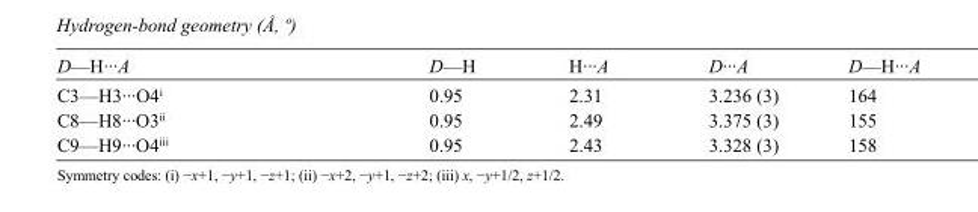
<table><tbody><tr><td>D—H···A</td><td>D—H</td><td>H···A</td><td>D···A</td><td>D—H···A</td></tr><tr><td>C3—H3···O4<sup>i</sup></td><td>0.95</td><td>2.31</td><td>3.236 (3)</td><td>164</td></tr><tr><td>C8—H8···O3<sup>ii</sup></td><td>0.95</td><td>2.49</td><td>3.375 (3)</td><td>155</td></tr><tr><td>C9—H9···O4<sup>iii</sup></td><td>0.95</td><td>2.43</td><td>3.328 (3)</td><td>158</td></tr></tbody></table>